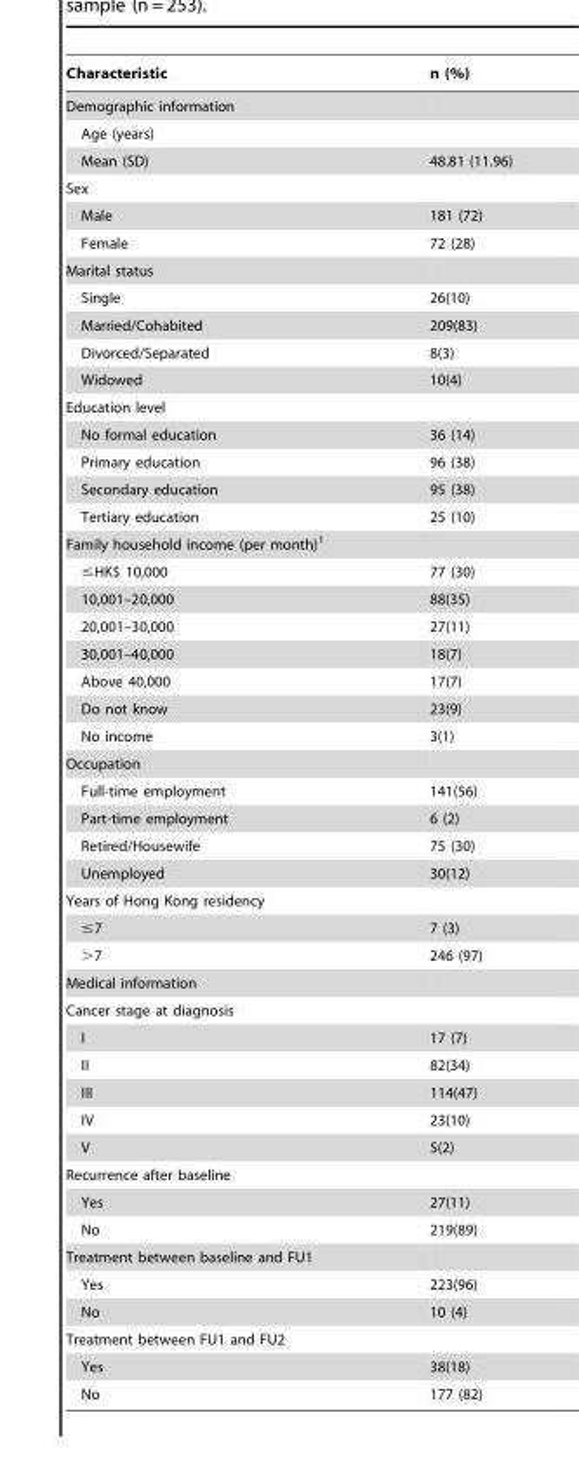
<table><thead><tr><td>Characteristic</td><td>n (%)</td></tr></thead><tbody><tr><td colspan="2">Demographic information</td></tr><tr><td colspan="2">Age (years)</td></tr><tr><td>Mean (SD)</td><td>48.81 (11.96)</td></tr><tr><td colspan="2">Sex</td></tr><tr><td>Male</td><td>181 (72)</td></tr><tr><td>Female</td><td>72 (28)</td></tr><tr><td colspan="2">Marital status</td></tr><tr><td>Single</td><td>26(10)</td></tr><tr><td>Married/Cohabited</td><td>209(83)</td></tr><tr><td>Divorced/Separated</td><td>8(3)</td></tr><tr><td>Widowed</td><td>10(4)</td></tr><tr><td colspan="2">Education level</td></tr><tr><td>No formal education</td><td>36 (14)</td></tr><tr><td>Primary education</td><td>96 (38)</td></tr><tr><td>Secondary education</td><td>95 (38)</td></tr><tr><td>Tertiary education</td><td>25 (10)</td></tr><tr><td colspan="2">Family household income (per month)<sup>1</sup></td></tr><tr><td>≤HK$ 10,000</td><td>77 (30)</td></tr><tr><td>10,001–20,000</td><td>88(35)</td></tr><tr><td>20,001–30,000</td><td>27(11)</td></tr><tr><td>30,001–40,000</td><td>18(7)</td></tr><tr><td>Above 40,000</td><td>17(7)</td></tr><tr><td>Do not know</td><td>23(9)</td></tr><tr><td>No income</td><td>3(1)</td></tr><tr><td colspan="2">Occupation</td></tr><tr><td>Full-time employment</td><td>141(56)</td></tr><tr><td>Part-time employment</td><td>6 (2)</td></tr><tr><td>Retired/Housewife</td><td>75 (30)</td></tr><tr><td>Unemployed</td><td>30(12)</td></tr><tr><td colspan="2">Years of Hong Kong residency</td></tr><tr><td>≤7</td><td>7 (3)</td></tr><tr><td>&gt;7</td><td>246 (97)</td></tr><tr><td colspan="2">Medical information</td></tr><tr><td colspan="2">Cancer stage at diagnosis</td></tr><tr><td>I</td><td>17 (7)</td></tr><tr><td>II</td><td>82(34)</td></tr><tr><td>III</td><td>114(47)</td></tr><tr><td>IV</td><td>23(10)</td></tr><tr><td>V</td><td>5(2)</td></tr><tr><td colspan="2">Recurrence after baseline</td></tr><tr><td>Yes</td><td>27(11)</td></tr><tr><td>No</td><td>219(89)</td></tr><tr><td colspan="2">Treatment between baseline and FU1</td></tr><tr><td>Yes</td><td>223(96)</td></tr><tr><td>No</td><td>10 (4)</td></tr><tr><td colspan="2">Treatment between FU1 and FU2</td></tr><tr><td>Yes</td><td>38(18)</td></tr><tr><td>No</td><td>177 (82)</td></tr></tbody></table>